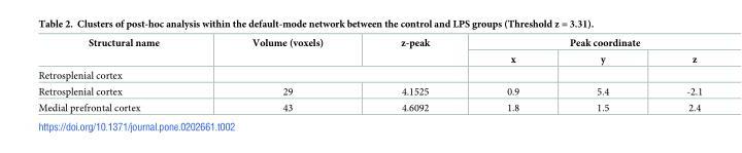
<table><thead><tr><td rowspan="2">Structural name</td><td rowspan="2">Volume (voxels)</td><td rowspan="2">z-peak</td><td colspan="3">Peak coordinate</td></tr><tr><td>x</td><td>y</td><td>z</td></tr></thead><tbody><tr><td colspan="6">Retrosplenial cortex</td></tr><tr><td>Retrosplenial cortex</td><td>29</td><td>4.1525</td><td>0.9</td><td>5.4</td><td>-2.1</td></tr><tr><td>Medial prefrontal cortex</td><td>43</td><td>4.6092</td><td>1.8</td><td>1.5</td><td>2.4</td></tr></tbody></table>